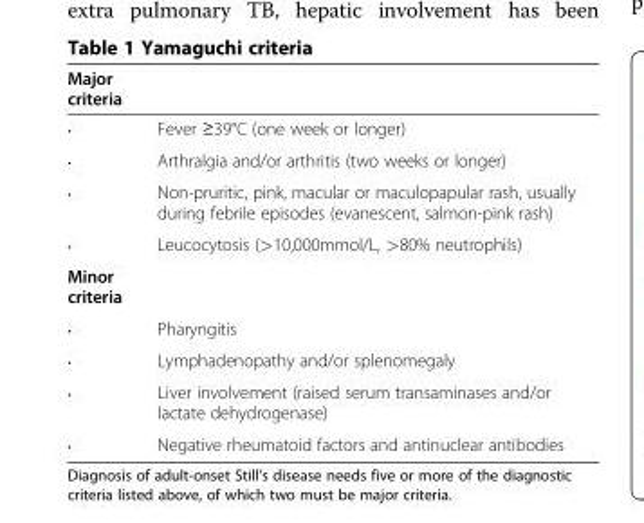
<table><thead><tr><td>Major criteria</td><td></td></tr></thead><tbody><tr><td>•</td><td>Fever ≥39°C (one week or longer)</td></tr><tr><td>•</td><td>Arthralgia and/or arthritis (two weeks or longer)</td></tr><tr><td>•</td><td>Non-pruritic, pink, macular or maculopapular rash, usually during febrile episodes (evanescent, salmon-pink rash)</td></tr><tr><td>•</td><td>Leucocytosis (&gt;10,000mmol/L, &gt;80% neutrophils)</td></tr><tr><td colspan="2">Minor criteria</td></tr><tr><td>•</td><td>Pharyngitis</td></tr><tr><td>•</td><td>Lymphadenopathy and/or splenomegaly</td></tr><tr><td>•</td><td>Liver involvement (raised serum transaminases and/or lactate dehydrogenase)</td></tr><tr><td>•</td><td>Negative rheumatoid factors and antinuclear antibodies</td></tr></tbody></table>